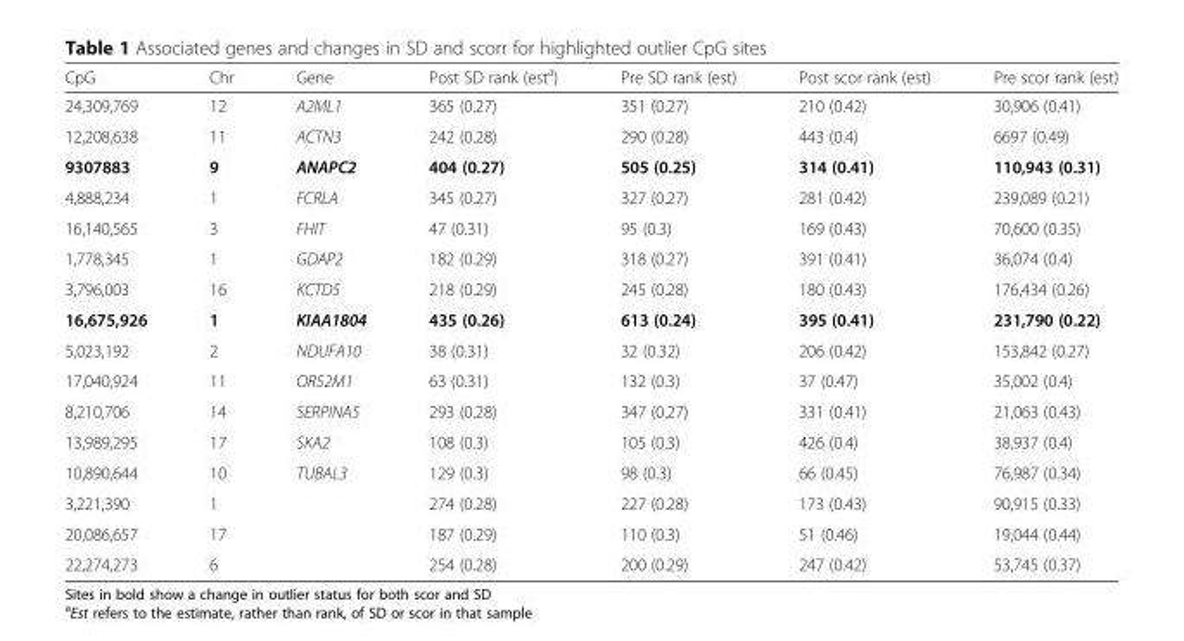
<table><thead><tr><td>CpG</td><td>Chr</td><td>Gene</td><td>Post SD rank (est<sup>a</sup>)</td><td>Pre SD rank (est)</td><td>Post scor rank (est)</td><td>Pre scor rank (est)</td></tr></thead><tbody><tr><td>24,309,769</td><td>12</td><td>A2ML1</td><td>365 (0.27)</td><td>351 (0.27)</td><td>210 (0.42)</td><td>30,906 (0.41)</td></tr><tr><td>12,208,638</td><td>11</td><td>ACTN3</td><td>242 (0.28)</td><td>290 (0.28)</td><td>443 (0.4)</td><td>6697 (0.49)</td></tr><tr><td>9307883</td><td>9</td><td>ANAPC2</td><td>404 (0.27)</td><td>505 (0.25)</td><td>314 (0.41)</td><td>110,943 (0.31)</td></tr><tr><td>4,888,234</td><td>1</td><td>FCRLA</td><td>345 (0.27)</td><td>327 (0.27)</td><td>281 (0.42)</td><td>239,089 (0.21)</td></tr><tr><td>16,140,565</td><td>3</td><td>FHIT</td><td>47 (0.31)</td><td>95 (0.3)</td><td>169 (0.43)</td><td>70,600 (0.35)</td></tr><tr><td>1,778,345</td><td>1</td><td>GDAP2</td><td>182 (0.29)</td><td>318 (0.27)</td><td>391 (0.41)</td><td>36,074 (0.4)</td></tr><tr><td>3,796,003</td><td>16</td><td>KCTD5</td><td>218 (0.29)</td><td>245 (0.28)</td><td>180 (0.43)</td><td>176,434 (0.26)</td></tr><tr><td>16,675,926</td><td>1</td><td>KIAA1804</td><td>435 (0.26)</td><td>613 (0.24)</td><td>395 (0.41)</td><td>231,790 (0.22)</td></tr><tr><td>5,023,192</td><td>2</td><td>NDUFA10</td><td>38 (0.31)</td><td>32 (0.32)</td><td>206 (0.42)</td><td>153,842 (0.27)</td></tr><tr><td>17,040,924</td><td>11</td><td>OR52M1</td><td>63 (0.31)</td><td>132 (0.3)</td><td>37 (0.47)</td><td>35,002 (0.4)</td></tr><tr><td>8,210,706</td><td>14</td><td>SERPINA5</td><td>293 (0.28)</td><td>347 (0.27)</td><td>331 (0.41)</td><td>21,063 (0.43)</td></tr><tr><td>13,989,295</td><td>17</td><td>SKA2</td><td>108 (0.3)</td><td>105 (0.3)</td><td>426 (0.4)</td><td>38,937 (0.4)</td></tr><tr><td>10,890,644</td><td>10</td><td>TUBAL3</td><td>129 (0.3)</td><td>98 (0.3)</td><td>66 (0.45)</td><td>76,987 (0.34)</td></tr><tr><td>3,221,390</td><td>1</td><td></td><td>274 (0.28)</td><td>227 (0.28)</td><td>173 (0.43)</td><td>90,915 (0.33)</td></tr><tr><td>20,086,657</td><td>17</td><td></td><td>187 (0.29)</td><td>110 (0.3)</td><td>51 (0.46)</td><td>19,044 (0.44)</td></tr><tr><td>22,274,273</td><td>6</td><td></td><td>254 (0.28)</td><td>200 (0.29)</td><td>247 (0.42)</td><td>53,745 (0.37)</td></tr></tbody></table>